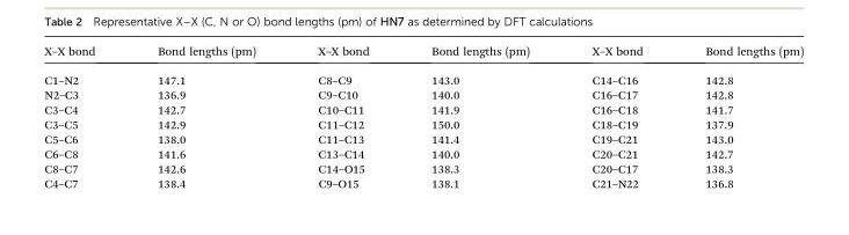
<table><thead><tr><td>X–X bond</td><td>Bond lengths (pm)</td><td>X–X bond</td><td>Bond lengths (pm)</td><td>X–X bond</td><td>Bond lengths (pm)</td></tr></thead><tbody><tr><td>C1–N2</td><td>147.1</td><td>C8–C9</td><td>143.0</td><td>C14–C16</td><td>142.8</td></tr><tr><td>N2–C3</td><td>136.9</td><td>C9–C10</td><td>140.0</td><td>C16–C17</td><td>142.8</td></tr><tr><td>C3–C4</td><td>142.7</td><td>C10–C11</td><td>141.9</td><td>C16–C18</td><td>141.7</td></tr><tr><td>C3–C5</td><td>142.9</td><td>C11–C12</td><td>150.0</td><td>C18–C19</td><td>137.9</td></tr><tr><td>C5–C6</td><td>138.0</td><td>C11–C13</td><td>141.4</td><td>C19–C21</td><td>143.0</td></tr><tr><td>C6–C8</td><td>141.6</td><td>C13–C14</td><td>140.0</td><td>C20–C21</td><td>142.7</td></tr><tr><td>C8–C7</td><td>142.6</td><td>C14–O15</td><td>138.3</td><td>C20–C17</td><td>138.3</td></tr><tr><td>C4–C7</td><td>138.4</td><td>C9–O15</td><td>138.1</td><td>C21–N22</td><td>136.8</td></tr></tbody></table>